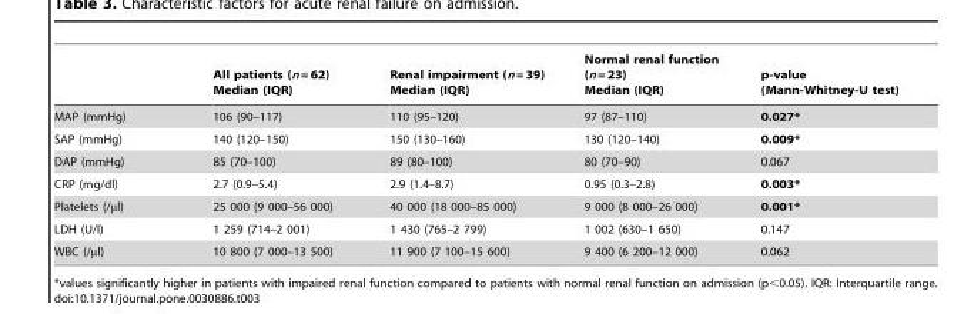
<table><thead><tr><td></td><td>All patients (n = 62) Median (IQR)</td><td>Renal impairment (n = 39) Median (IQR)</td><td>Normal renal function (n = 23) Median (IQR)</td><td>p-value (Mann-Whitney-U test)</td></tr></thead><tbody><tr><td>MAP (mmHg)</td><td>106 (90–117)</td><td>110 (95–120)</td><td>97 (87–110)</td><td>0.027*</td></tr><tr><td>SAP (mmHg)</td><td>140 (120–150)</td><td>150 (130–160)</td><td>130 (120–140)</td><td>0.009*</td></tr><tr><td>DAP (mmHg)</td><td>85 (70–100)</td><td>89 (80–100)</td><td>80 (70–90)</td><td>0.067</td></tr><tr><td>CRP (mg/dl)</td><td>2.7 (0.9–5.4)</td><td>2.9 (1.4–8.7)</td><td>0.95 (0.3–2.8)</td><td>0.003*</td></tr><tr><td>Platelets (/µl)</td><td>25 000 (9 000–56 000)</td><td>40 000 (18 000–85 000)</td><td>9 000 (8 000–26 000)</td><td>0.001*</td></tr><tr><td>LDH (U/l)</td><td>1 259 (714–2 001)</td><td>1 430 (765–2 799)</td><td>1 002 (630–1 650)</td><td>0.147</td></tr><tr><td>WBC (/µl)</td><td>10 800 (7 000–13 500)</td><td>11 900 (7 100–15 600)</td><td>9 400 (6 200–12 000)</td><td>0.062</td></tr></tbody></table>